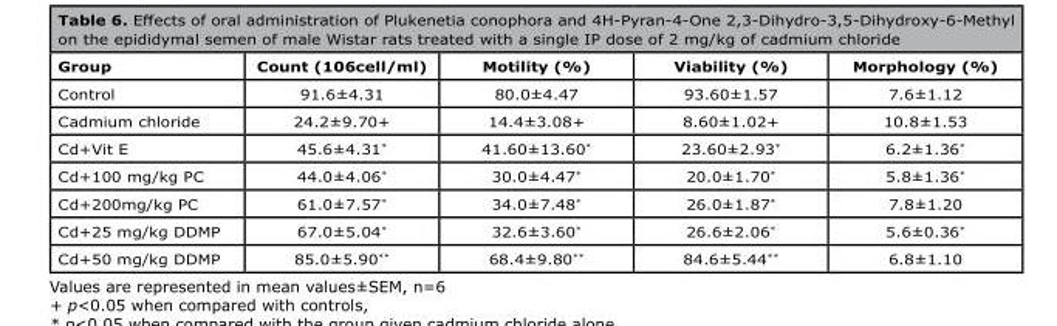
<table><thead><tr><td>Group</td><td>Count (106cell/ml)</td><td>Motility (%)</td><td>Viability (%)</td><td>Morphology (%)</td></tr></thead><tbody><tr><td>Control</td><td>91.6±4.31</td><td>80.0±4.47</td><td>93.60±1.57</td><td>7.6±1.12</td></tr><tr><td>Cadmium chloride</td><td>24.2±9.70+</td><td>14.4±3.08+</td><td>8.60±1.02+</td><td>10.8±1.53</td></tr><tr><td>Cd+Vit E</td><td>45.6±4.31*</td><td>41.60±13.60*</td><td>23.60±2.93*</td><td>6.2±1.36*</td></tr><tr><td>Cd+100 mg/kg PC</td><td>44.0±4.06*</td><td>30.0±4.47*</td><td>20.0±1.70*</td><td>5.8±1.36*</td></tr><tr><td>Cd+200mg/kg PC</td><td>61.0±7.57*</td><td>34.0±7.48*</td><td>26.0±1.87*</td><td>7.8±1.20</td></tr><tr><td>Cd+25 mg/kg DDMP</td><td>67.0±5.04*</td><td>32.6±3.60*</td><td>26.6±2.06*</td><td>5.6±0.36*</td></tr><tr><td>Cd+50 mg/kg DDMP</td><td>85.0±5.90**</td><td>68.4±9.80**</td><td>84.6±5.44**</td><td>6.8±1.10</td></tr></tbody></table>